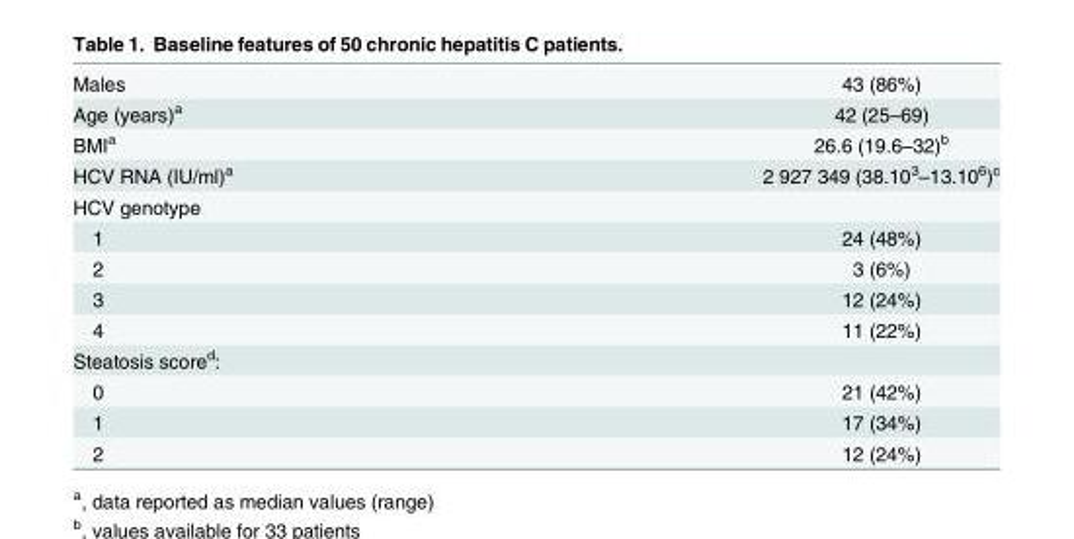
<table><tbody><tr><td>Males</td><td>43 (86%)</td></tr><tr><td>Age (years)<sup>a</sup></td><td>42 (25–69)</td></tr><tr><td>BMI<sup>a</sup></td><td>26.6 (19.6–32)<sup>b</sup></td></tr><tr><td>HCV RNA (IU/ml)<sup>a</sup></td><td>2 927 349 (38.10<sup>3</sup>–13.10<sup>6</sup>)<sup>c</sup></td></tr><tr><td colspan="2">HCV genotype</td></tr><tr><td>1</td><td>24 (48%)</td></tr><tr><td>2</td><td>3 (6%)</td></tr><tr><td>3</td><td>12 (24%)</td></tr><tr><td>4</td><td>11 (22%)</td></tr><tr><td colspan="2">Steatosis score<sup>d</sup>:</td></tr><tr><td>0</td><td>21 (42%)</td></tr><tr><td>1</td><td>17 (34%)</td></tr><tr><td>2</td><td>12 (24%)</td></tr></tbody></table>